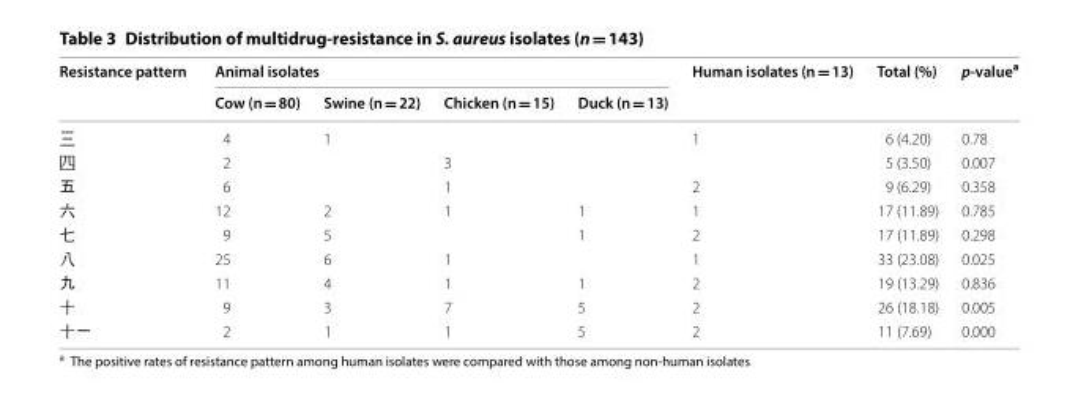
<table><thead><tr><td rowspan="2">Resistance pattern</td><td colspan="4">Animal isolates</td><td rowspan="2">Human isolates (n = 13)</td><td rowspan="2">Total (%)</td><td rowspan="2">p-value<sup>a</sup></td></tr><tr><td>Cow (n = 80)</td><td>Swine (n = 22)</td><td>Chicken (n = 15)</td><td>Duck (n = 13)</td></tr></thead><tbody><tr><td>三</td><td>4</td><td>1</td><td></td><td></td><td>1</td><td>6 (4.20)</td><td>0.78</td></tr><tr><td>四</td><td>2</td><td></td><td>3</td><td></td><td></td><td>5 (3.50)</td><td>0.007</td></tr><tr><td>五</td><td>6</td><td></td><td>1</td><td></td><td>2</td><td>9 (6.29)</td><td>0.358</td></tr><tr><td>六</td><td>12</td><td>2</td><td>1</td><td>1</td><td>1</td><td>17 (11.89)</td><td>0.785</td></tr><tr><td>七</td><td>9</td><td>5</td><td></td><td>1</td><td>2</td><td>17 (11.89)</td><td>0.298</td></tr><tr><td>八</td><td>25</td><td>6</td><td>1</td><td></td><td>1</td><td>33 (23.08)</td><td>0.025</td></tr><tr><td>九</td><td>11</td><td>4</td><td>1</td><td>1</td><td>2</td><td>19 (13.29)</td><td>0.836</td></tr><tr><td>十</td><td>9</td><td>3</td><td>7</td><td>5</td><td>2</td><td>26 (18.18)</td><td>0.005</td></tr><tr><td>十一</td><td>2</td><td>1</td><td>1</td><td>5</td><td>2</td><td>11 (7.69)</td><td>0.000</td></tr></tbody></table>